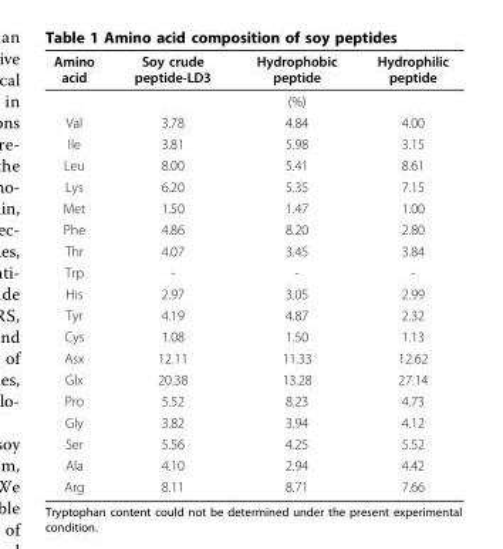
<table><thead><tr><td>Amino acid</td><td>Soy crude peptide-LD3</td><td>Hydrophobic peptide</td><td>Hydrophilic peptide</td></tr></thead><tbody><tr><td></td><td></td><td>(%)</td><td></td></tr><tr><td>Val</td><td>3.78</td><td>4.84</td><td>4.00</td></tr><tr><td>Ile</td><td>3.81</td><td>5.98</td><td>3.15</td></tr><tr><td>Leu</td><td>8.00</td><td>5.41</td><td>8.61</td></tr><tr><td>Lys</td><td>6.20</td><td>5.35</td><td>7.15</td></tr><tr><td>Met</td><td>1.50</td><td>1.47</td><td>1.00</td></tr><tr><td>Phe</td><td>4.86</td><td>8.20</td><td>2.80</td></tr><tr><td>Thr</td><td>4.07</td><td>3.45</td><td>3.84</td></tr><tr><td>Trp</td><td>-</td><td>-</td><td>-</td></tr><tr><td>His</td><td>2.97</td><td>3.05</td><td>2.99</td></tr><tr><td>Tyr</td><td>4.19</td><td>4.87</td><td>2.32</td></tr><tr><td>Cys</td><td>1.08</td><td>1.50</td><td>1.13</td></tr><tr><td>Asx</td><td>12.11</td><td>11.33</td><td>12.62</td></tr><tr><td>Glx</td><td>20.38</td><td>13.28</td><td>27.14</td></tr><tr><td>Pro</td><td>5.52</td><td>8.23</td><td>4.73</td></tr><tr><td>Gly</td><td>3.82</td><td>3.94</td><td>4.12</td></tr><tr><td>Ser</td><td>5.56</td><td>4.25</td><td>5.52</td></tr><tr><td>Ala</td><td>4.10</td><td>2.94</td><td>4.42</td></tr><tr><td>Arg</td><td>8.11</td><td>8.71</td><td>7.66</td></tr></tbody></table>